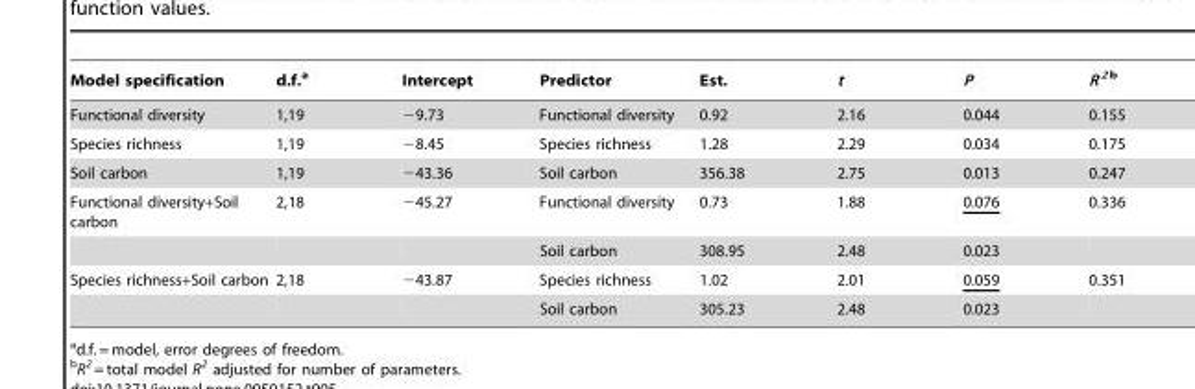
<table><thead><tr><td>Model specification</td><td>d.f.<sup>a</sup></td><td>Intercept</td><td>Predictor</td><td>Est.</td><td>t</td><td>P</td><td>R <sup>2</sup> b</td></tr></thead><tbody><tr><td>Functional diversity</td><td>1,19</td><td>−9.73</td><td>Functional diversity</td><td>0.92</td><td>2.16</td><td>0.044</td><td>0.155</td></tr><tr><td>Species richness</td><td>1,19</td><td>−8.45</td><td>Species richness</td><td>1.28</td><td>2.29</td><td>0.034</td><td>0.175</td></tr><tr><td>Soil carbon</td><td>1,19</td><td>−43.36</td><td>Soil carbon</td><td>356.38</td><td>2.75</td><td>0.013</td><td>0.247</td></tr><tr><td rowspan="2">Functional diversity+Soil carbon</td><td>2,18</td><td>−45.27</td><td>Functional diversity</td><td>0.73</td><td>1.88</td><td>0.076</td><td>0.336</td></tr><tr><td></td><td></td><td>Soil carbon</td><td>308.95</td><td>2.48</td><td>0.023</td><td></td></tr><tr><td rowspan="2">Species richness+Soil carbon</td><td>2,18</td><td>−43.87</td><td>Species richness</td><td>1.02</td><td>2.01</td><td>0.059</td><td>0.351</td></tr><tr><td></td><td></td><td>Soil carbon</td><td>305.23</td><td>2.48</td><td>0.023</td><td></td></tr></tbody></table>